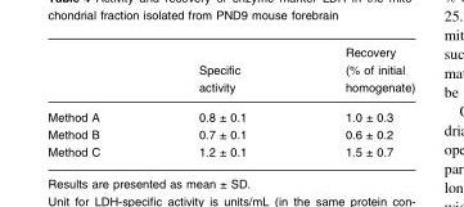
<table><thead><tr><td></td><td>Specific activity</td><td>Recovery (% of initial homogenate)</td></tr></thead><tbody><tr><td>Method A</td><td>0.8 ± 0.1</td><td>1.0 ± 0.3</td></tr><tr><td>Method B</td><td>0.7 ± 0.1</td><td>0.6 ± 0.2</td></tr><tr><td>Method C</td><td>1.2 ± 0.1</td><td>1.5 ± 0.7</td></tr></tbody></table>